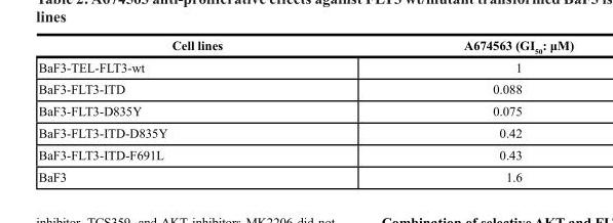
<table><thead><tr><td>Cell lines</td><td>A674563 (GI<sub>50</sub>: μM)</td></tr></thead><tbody><tr><td>BaF3-TEL-FLT3-wt</td><td>1</td></tr><tr><td>BaF3-FLT3-ITD</td><td>0.088</td></tr><tr><td>BaF3-FLT3-D835Y</td><td>0.075</td></tr><tr><td>BaF3-FLT3-ITD-D835Y</td><td>0.42</td></tr><tr><td>BaF3-FLT3-ITD-F691L</td><td>0.43</td></tr><tr><td>BaF3</td><td>1.6</td></tr></tbody></table>